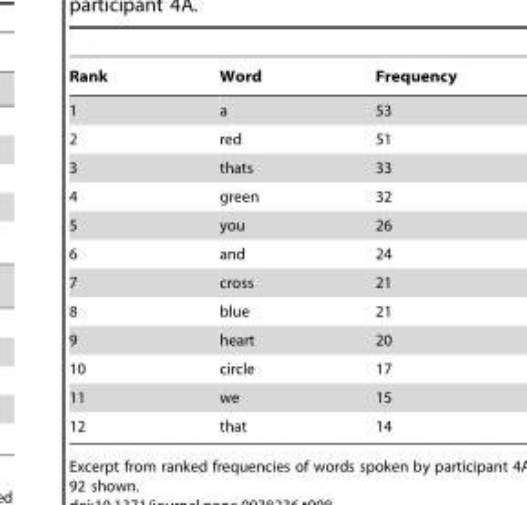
<table><thead><tr><td>Rank</td><td>Word</td><td>Frequency</td></tr></thead><tbody><tr><td>1</td><td>a</td><td>53</td></tr><tr><td>2</td><td>red</td><td>51</td></tr><tr><td>3</td><td>thats</td><td>33</td></tr><tr><td>4</td><td>green</td><td>32</td></tr><tr><td>5</td><td>you</td><td>26</td></tr><tr><td>6</td><td>and</td><td>24</td></tr><tr><td>7</td><td>cross</td><td>21</td></tr><tr><td>8</td><td>blue</td><td>21</td></tr><tr><td>9</td><td>heart</td><td>20</td></tr><tr><td>10</td><td>circle</td><td>17</td></tr><tr><td>11</td><td>we</td><td>15</td></tr><tr><td>12</td><td>that</td><td>14</td></tr></tbody></table>